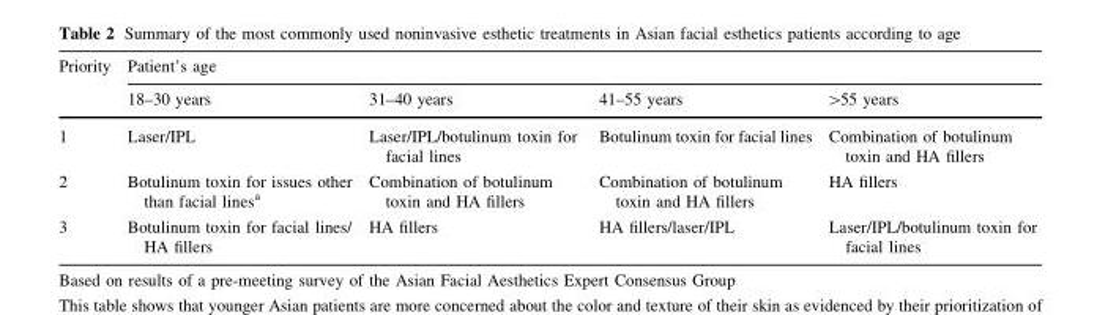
<table><thead><tr><td rowspan="2">Priority</td><td colspan="4">Patient’s age</td></tr><tr><td>18–30 years</td><td>31–40 years</td><td>41–55 years</td><td>&gt;55 years</td></tr></thead><tbody><tr><td>1</td><td>Laser/IPL</td><td>Laser/IPL/botulinum toxin for facial lines</td><td>Botulinum toxin for facial lines</td><td>Combination of botulinum toxin and HA fillers</td></tr><tr><td>2</td><td>Botulinum toxin for issues other than facial lines<sup>a</sup></td><td>Combination of botulinum toxin and HA fillers</td><td>Combination of botulinum toxin and HA fillers</td><td>HA fillers</td></tr><tr><td>3</td><td>Botulinum toxin for facial lines/ HA fillers</td><td>HA fillers</td><td>HA fillers/laser/IPL</td><td>Laser/IPL/botulinum toxin for facial lines</td></tr></tbody></table>